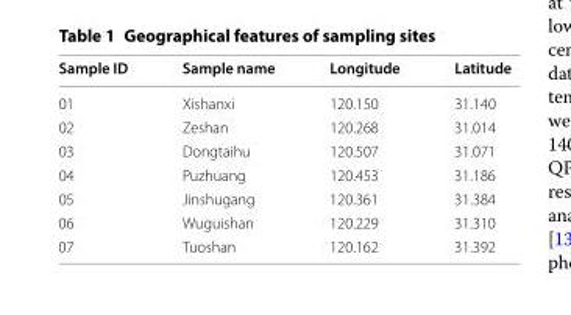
<table><thead><tr><td>Sample ID</td><td>Sample name</td><td>Longitude</td><td>Latitude</td></tr></thead><tbody><tr><td>01</td><td>Xishanxi</td><td>120.150</td><td>31.140</td></tr><tr><td>02</td><td>Zeshan</td><td>120.268</td><td>31.014</td></tr><tr><td>03</td><td>Dongtaihu</td><td>120.507</td><td>31.071</td></tr><tr><td>04</td><td>Puzhuang</td><td>120.453</td><td>31.186</td></tr><tr><td>05</td><td>Jinshugang</td><td>120.361</td><td>31.384</td></tr><tr><td>06</td><td>Wuguishan</td><td>120.229</td><td>31.310</td></tr><tr><td>07</td><td>Tuoshan</td><td>120.162</td><td>31.392</td></tr></tbody></table>